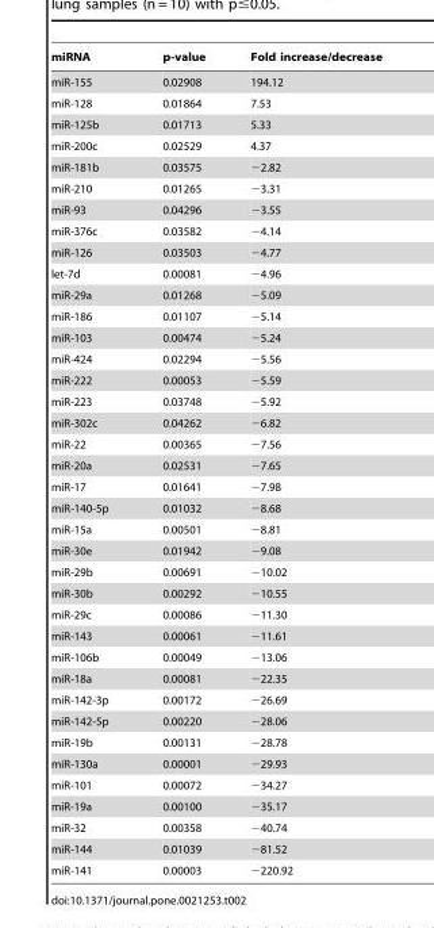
<table><thead><tr><td>miRNA</td><td>p-value</td><td>Fold increase/decrease</td></tr></thead><tbody><tr><td>miR-155</td><td>0.02908</td><td>194.12</td></tr><tr><td>miR-128</td><td>0.01864</td><td>7.53</td></tr><tr><td>miR-125b</td><td>0.01713</td><td>5.33</td></tr><tr><td>miR-200c</td><td>0.02529</td><td>4.37</td></tr><tr><td>miR-181b</td><td>0.03575</td><td>−2.82</td></tr><tr><td>miR-210</td><td>0.01265</td><td>−3.31</td></tr><tr><td>miR-93</td><td>0.04296</td><td>−3.55</td></tr><tr><td>miR-376c</td><td>0.03582</td><td>−4.14</td></tr><tr><td>miR-126</td><td>0.03503</td><td>−4.77</td></tr><tr><td>let-7d</td><td>0.00081</td><td>−4.96</td></tr><tr><td>miR-29a</td><td>0.01268</td><td>−5.09</td></tr><tr><td>miR-186</td><td>0.01107</td><td>−5.14</td></tr><tr><td>miR-103</td><td>0.00474</td><td>−5.24</td></tr><tr><td>miR-424</td><td>0.02294</td><td>−5.56</td></tr><tr><td>miR-222</td><td>0.00053</td><td>−5.59</td></tr><tr><td>miR-223</td><td>0.03748</td><td>−5.92</td></tr><tr><td>miR-302c</td><td>0.04262</td><td>−6.82</td></tr><tr><td>miR-22</td><td>0.00365</td><td>−7.56</td></tr><tr><td>miR-20a</td><td>0.02531</td><td>−7.65</td></tr><tr><td>miR-17</td><td>0.01641</td><td>−7.98</td></tr><tr><td>miR-140-5p</td><td>0.01032</td><td>−8.68</td></tr><tr><td>miR-15a</td><td>0.00501</td><td>−8.81</td></tr><tr><td>miR-30e</td><td>0.01942</td><td>−9.08</td></tr><tr><td>miR-29b</td><td>0.00691</td><td>−10.02</td></tr><tr><td>miR-30b</td><td>0.00292</td><td>−10.55</td></tr><tr><td>miR-29c</td><td>0.00086</td><td>−11.30</td></tr><tr><td>miR-143</td><td>0.00061</td><td>−11.61</td></tr><tr><td>miR-106b</td><td>0.00049</td><td>−13.06</td></tr><tr><td>miR-18a</td><td>0.00081</td><td>−22.35</td></tr><tr><td>miR-142-3p</td><td>0.00172</td><td>−26.69</td></tr><tr><td>miR-142-5p</td><td>0.00220</td><td>−28.06</td></tr><tr><td>miR-19b</td><td>0.00131</td><td>−28.78</td></tr><tr><td>miR-130a</td><td>0.00001</td><td>−29.93</td></tr><tr><td>miR-101</td><td>0.00072</td><td>−34.27</td></tr><tr><td>miR-19a</td><td>0.00100</td><td>−35.17</td></tr><tr><td>miR-32</td><td>0.00358</td><td>−40.74</td></tr><tr><td>miR-144</td><td>0.01039</td><td>−81.52</td></tr><tr><td>miR-141</td><td>0.00003</td><td>−220.92</td></tr></tbody></table>